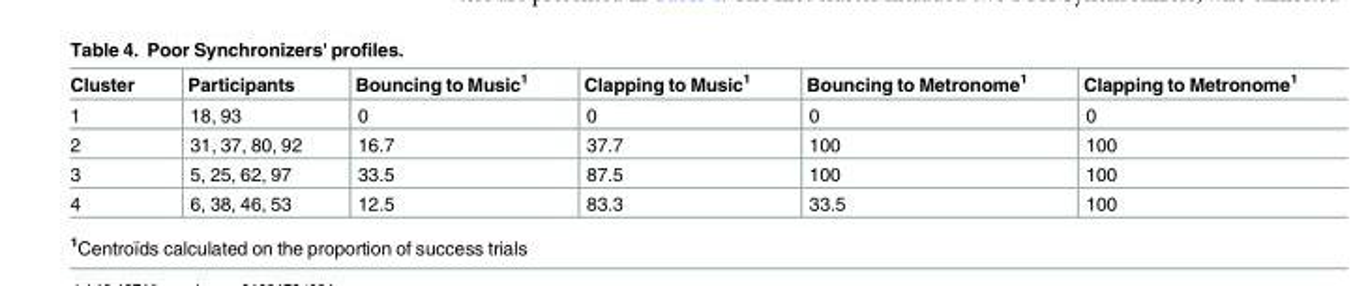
<table><thead><tr><td>Cluster</td><td>Participants</td><td>Bouncing to Music<sup>1</sup></td><td>Clapping to Music<sup>1</sup></td><td>Bouncing to Metronome<sup>1</sup></td><td>Clapping to Metronome<sup>1</sup></td></tr></thead><tbody><tr><td>1</td><td>18, 93</td><td>0</td><td>0</td><td>0</td><td>0</td></tr><tr><td>2</td><td>31, 37, 80, 92</td><td>16.7</td><td>37.7</td><td>100</td><td>100</td></tr><tr><td>3</td><td>5, 25, 62, 97</td><td>33.5</td><td>87.5</td><td>100</td><td>100</td></tr><tr><td>4</td><td>6, 38, 46, 53</td><td>12.5</td><td>83.3</td><td>33.5</td><td>100</td></tr></tbody></table>